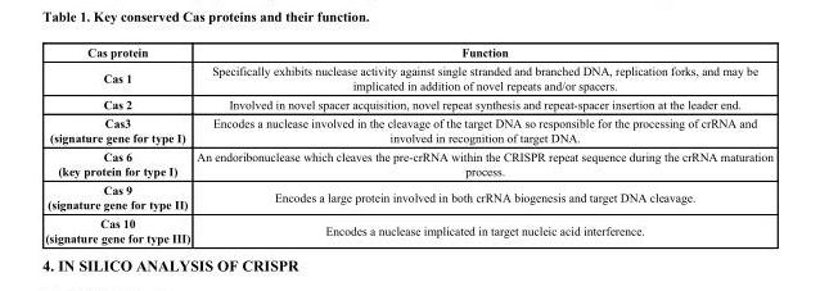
<table><thead><tr><td>Cas protein</td><td>Function</td></tr></thead><tbody><tr><td>Cas 1</td><td>Specifically exhibits nuclease activity against single stranded and branched DNA, replication forks, and may be implicated in addition of novel repeats and/or spacers.</td></tr><tr><td>Cas 2</td><td>Involved in novel spacer acquisition, novel repeat synthesis and repeat-spacer insertion at the leader end.</td></tr><tr><td>Cas3 (signature gene for type I)</td><td>Encodes a nuclease involved in the cleavage of the target DNA so responsible for the processing of crRNA and involved in recognition of target DNA.</td></tr><tr><td>Cas 6 (key protein for type Ι)</td><td>An endoribonuclease which cleaves the pre-crRNA within the CRISPR repeat sequence during the crRNA maturation process.</td></tr><tr><td>Cas 9 (signature gene for type ΙΙ)</td><td>Encodes a large protein involved in both crRNA biogenesis and target DNA cleavage.</td></tr><tr><td>Cas 10 (signature gene for type III)</td><td>Encodes a nuclease implicated in target nucleic acid interference.</td></tr></tbody></table>